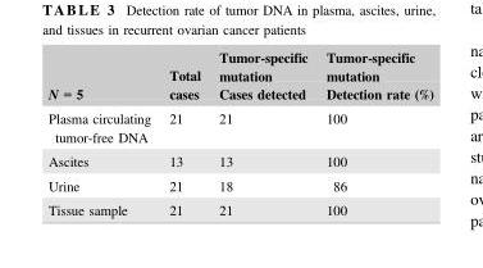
<table><thead><tr><td rowspan="2">N = 5</td><td rowspan="2">Total cases</td><td rowspan="2">Tumor-specific mutation Cases detected</td><td rowspan="2">Tumor-specific mutation Detection rate (%)</td></tr><tr></tr></thead><tbody><tr><td>Plasma circulating tumor-free DNA</td><td>21</td><td>21</td><td>100</td></tr><tr><td>Ascites</td><td>13</td><td>13</td><td>100</td></tr><tr><td>Urine</td><td>21</td><td>18</td><td>86</td></tr><tr><td>Tissue sample</td><td>21</td><td>21</td><td>100</td></tr></tbody></table>